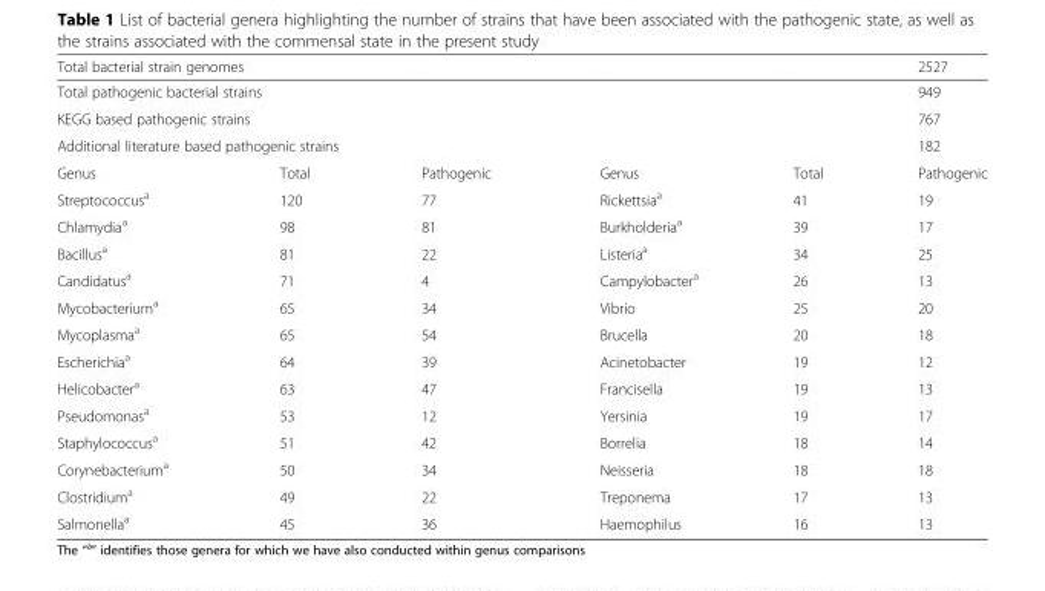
<table><thead><tr><td colspan="2">Total bacterial strain genomes</td><td></td><td></td><td></td><td>2527</td></tr></thead><tbody><tr><td colspan="3">Total pathogenic bacterial strains</td><td></td><td></td><td>949</td></tr><tr><td colspan="3">KEGG based pathogenic strains</td><td></td><td></td><td>767</td></tr><tr><td colspan="3">Additional literature based pathogenic strains</td><td></td><td></td><td>182</td></tr><tr><td>Genus</td><td>Total</td><td>Pathogenic</td><td>Genus</td><td>Total</td><td>Pathogenic</td></tr><tr><td>Streptococcus<sup>a</sup></td><td>120</td><td>77</td><td>Rickettsia<sup>a</sup></td><td>41</td><td>19</td></tr><tr><td>Chlamydia<sup>a</sup></td><td>98</td><td>81</td><td>Burkholderia<sup>a</sup></td><td>39</td><td>17</td></tr><tr><td>Bacillus<sup>a</sup></td><td>81</td><td>22</td><td>Listeria<sup>a</sup></td><td>34</td><td>25</td></tr><tr><td>Candidatus<sup>a</sup></td><td>71</td><td>4</td><td>Campylobacter<sup>a</sup></td><td>26</td><td>13</td></tr><tr><td>Mycobacterium<sup>a</sup></td><td>65</td><td>34</td><td>Vibrio</td><td>25</td><td>20</td></tr><tr><td>Mycoplasma<sup>a</sup></td><td>65</td><td>54</td><td>Brucella</td><td>20</td><td>18</td></tr><tr><td>Escherichia<sup>a</sup></td><td>64</td><td>39</td><td>Acinetobacter</td><td>19</td><td>12</td></tr><tr><td>Helicobacter<sup>a</sup></td><td>63</td><td>47</td><td>Francisella</td><td>19</td><td>13</td></tr><tr><td>Pseudomonas<sup>a</sup></td><td>53</td><td>12</td><td>Yersinia</td><td>19</td><td>17</td></tr><tr><td>Staphylococcus<sup>a</sup></td><td>51</td><td>42</td><td>Borrelia</td><td>18</td><td>14</td></tr><tr><td>Corynebacterium<sup>a</sup></td><td>50</td><td>34</td><td>Neisseria</td><td>18</td><td>18</td></tr><tr><td>Clostridium<sup>a</sup></td><td>49</td><td>22</td><td>Treponema</td><td>17</td><td>13</td></tr><tr><td>Salmonella<sup>a</sup></td><td>45</td><td>36</td><td>Haemophilus</td><td>16</td><td>13</td></tr></tbody></table>